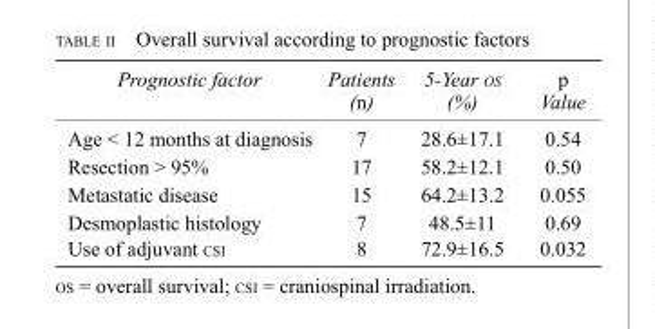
<table><thead><tr><td>Prognostic factor</td><td>Patients (n)</td><td>5-Year Os (%)</td><td>p Value</td></tr></thead><tbody><tr><td>Age &lt; 12 months at diagnosis</td><td>7</td><td>28.6±17.1</td><td>0.54</td></tr><tr><td>Resection &gt; 95%</td><td>17</td><td>58.2±12.1</td><td>0.50</td></tr><tr><td>Metastatic disease</td><td>15</td><td>64.2±13.2</td><td>0.055</td></tr><tr><td>Desmoplastic histology</td><td>7</td><td>48.5±11</td><td>0.69</td></tr><tr><td>Use of adjuvant csi</td><td>8</td><td>72.9±16.5</td><td>0.032</td></tr></tbody></table>